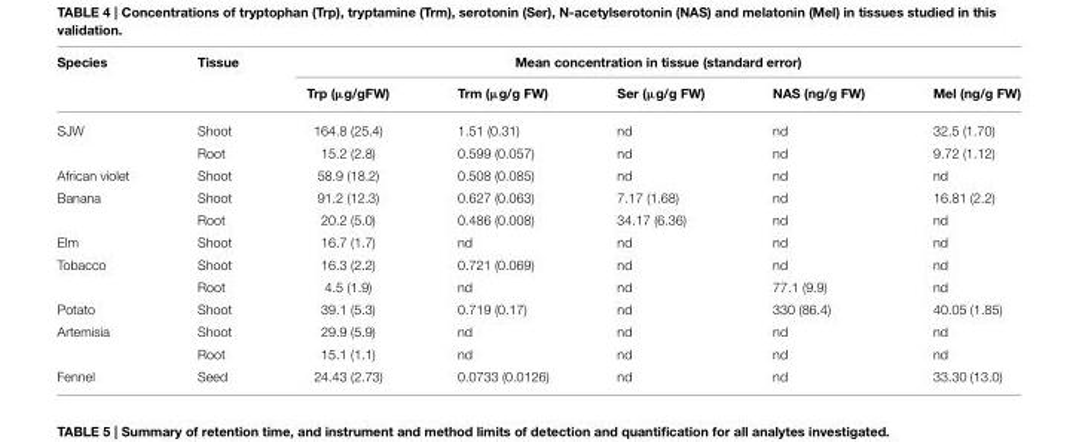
<table><thead><tr><td rowspan="2">Species</td><td rowspan="2">Tissue</td><td colspan="5">Mean concentration in tissue (standard error)</td></tr><tr><td>Trp (µg/gFW)</td><td>Trm (µg/g FW)</td><td>Ser (µg/g FW)</td><td>NAS (ng/g FW)</td><td>Mel (ng/g FW)</td></tr></thead><tbody><tr><td rowspan="2">SJW</td><td>Shoot</td><td>164.8 (25.4)</td><td>1.51 (0.31)</td><td>nd</td><td>nd</td><td>32.5 (1.70)</td></tr><tr><td>Root</td><td>15.2 (2.8)</td><td>0.599 (0.057)</td><td>nd</td><td>nd</td><td>9.72 (1.12)</td></tr><tr><td>African violet</td><td>Shoot</td><td>58.9 (18.2)</td><td>0.508 (0.085)</td><td>nd</td><td>nd</td><td>nd</td></tr><tr><td rowspan="2">Banana</td><td>Shoot</td><td>91.2 (12.3)</td><td>0.627 (0.063)</td><td>7.17 (1.68)</td><td>nd</td><td>16.81 (2.2)</td></tr><tr><td>Root</td><td>20.2 (5.0)</td><td>0.486 (0.008)</td><td>34.17 (6.36)</td><td>nd</td><td>nd</td></tr><tr><td>Elm</td><td>Shoot</td><td>16.7 (1.7)</td><td>nd</td><td>nd</td><td>nd</td><td>nd</td></tr><tr><td rowspan="2">Tobacco</td><td>Shoot</td><td>16.3 (2.2)</td><td>0.721 (0.069)</td><td>nd</td><td>nd</td><td>nd</td></tr><tr><td>Root</td><td>4.5 (1.9)</td><td>nd</td><td>nd</td><td>77.1 (9.9)</td><td>nd</td></tr><tr><td>Potato</td><td>Shoot</td><td>39.1 (5.3)</td><td>0.719 (0.17)</td><td>nd</td><td>330 (86.4)</td><td>40.05 (1.85)</td></tr><tr><td rowspan="2">Artemisia</td><td>Shoot</td><td>29.9 (5.9)</td><td>nd</td><td>nd</td><td>nd</td><td>nd</td></tr><tr><td>Root</td><td>15.1 (1.1)</td><td>nd</td><td>nd</td><td>nd</td><td>nd</td></tr><tr><td>Fennel</td><td>Seed</td><td>24.43 (2.73)</td><td>0.0733 (0.0126)</td><td>nd</td><td>nd</td><td>33.30 (13.0)</td></tr></tbody></table>